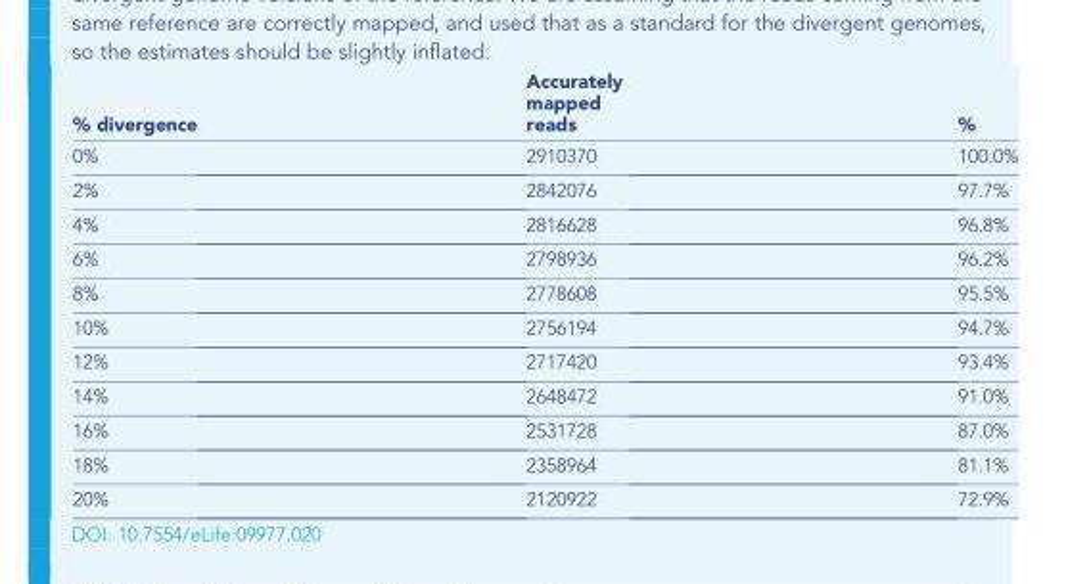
<table><thead><tr><td>% divergence</td><td>Accurately mapped reads</td><td>%</td></tr></thead><tbody><tr><td>0%</td><td>2910370</td><td>100.0%</td></tr><tr><td>2%</td><td>2842076</td><td>97.7%</td></tr><tr><td>4%</td><td>2816628</td><td>96.8%</td></tr><tr><td>6%</td><td>2798936</td><td>96.2%</td></tr><tr><td>8%</td><td>2778608</td><td>95.5%</td></tr><tr><td>10%</td><td>2756194</td><td>94.7%</td></tr><tr><td>12%</td><td>2717420</td><td>93.4%</td></tr><tr><td>14%</td><td>2648472</td><td>91.0%</td></tr><tr><td>16%</td><td>2531728</td><td>87.0%</td></tr><tr><td>18%</td><td>2358964</td><td>81.1%</td></tr><tr><td>20%</td><td>2120922</td><td>72.9%</td></tr></tbody></table>